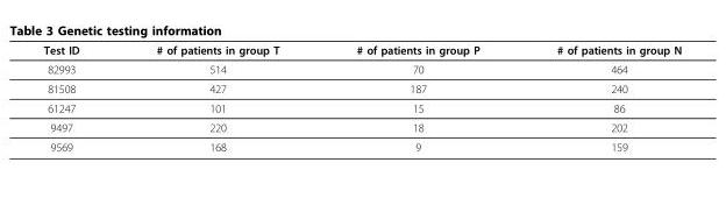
<table><thead><tr><td>Test ID</td><td># of patients in group T</td><td># of patients in group P</td><td># of patients in group N</td></tr></thead><tbody><tr><td>82993</td><td>514</td><td>70</td><td>464</td></tr><tr><td>81508</td><td>427</td><td>187</td><td>240</td></tr><tr><td>61247</td><td>101</td><td>15</td><td>86</td></tr><tr><td>9497</td><td>220</td><td>18</td><td>202</td></tr><tr><td>9569</td><td>168</td><td>9</td><td>159</td></tr></tbody></table>